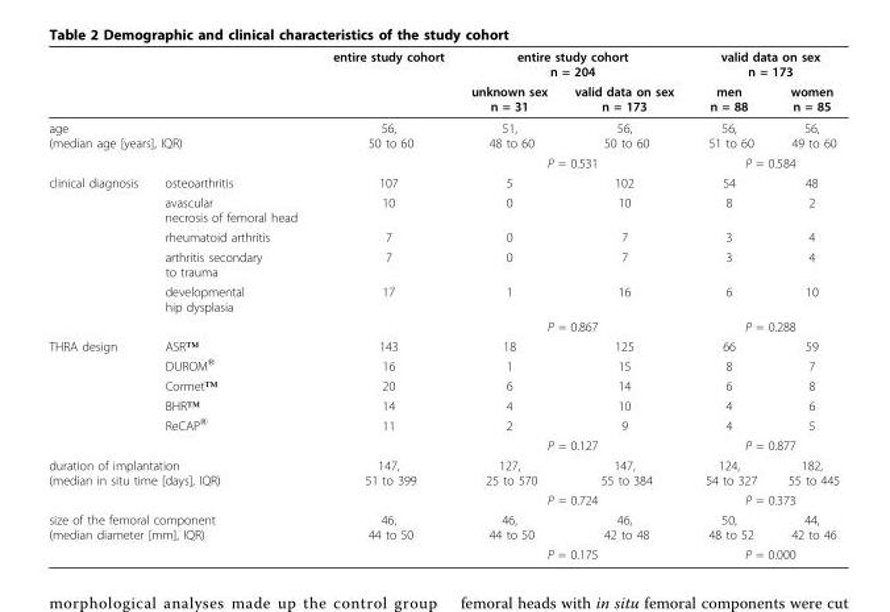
<table><thead><tr><td rowspan="2"></td><td rowspan="2"></td><td rowspan="2">entire study cohort</td><td colspan="2">entire study cohort n = 204</td><td colspan="2">valid data on sex n = 173</td></tr><tr><td>unknown sex n = 31</td><td>valid data on sex n = 173</td><td>men n = 88</td><td>women n = 85</td></tr></thead><tbody><tr><td colspan="2">age (median age [years], IQR)</td><td>56, 50 to 60</td><td>51, 48 to 60</td><td>56, 50 to 60</td><td>56, 51 to 60</td><td>56, 49 to 60</td></tr><tr><td></td><td></td><td></td><td colspan="2">P = 0.531</td><td colspan="2">P = 0.584</td></tr><tr><td rowspan="6">clinical diagnosis</td><td>osteoarthritis</td><td>107</td><td>5</td><td>102</td><td>54</td><td>48</td></tr><tr><td>avascular necrosis of femoral head</td><td>10</td><td>0</td><td>10</td><td>8</td><td>2</td></tr><tr><td>rheumatoid arthritis</td><td>7</td><td>0</td><td>7</td><td>3</td><td>4</td></tr><tr><td>arthritis secondary to trauma</td><td>7</td><td>0</td><td>7</td><td>3</td><td>4</td></tr><tr><td>developmental hip dysplasia</td><td>17</td><td>1</td><td>16</td><td>6</td><td>10</td></tr><tr><td></td><td></td><td colspan="2">P = 0.867</td><td colspan="2">P = 0.288</td></tr><tr><td rowspan="6">THRA design</td><td>ASR™</td><td>143</td><td>18</td><td>125</td><td>66</td><td>59</td></tr><tr><td>DUROM<sup>®</sup></td><td>16</td><td>1</td><td>15</td><td>8</td><td>7</td></tr><tr><td>Cormet™</td><td>20</td><td>6</td><td>14</td><td>6</td><td>8</td></tr><tr><td>BHR™</td><td>14</td><td>4</td><td>10</td><td>4</td><td>6</td></tr><tr><td>ReCAP<sup>®</sup></td><td>11</td><td>2</td><td>9</td><td>4</td><td>5</td></tr><tr><td></td><td></td><td colspan="2">P = 0.127</td><td colspan="2">P = 0.877</td></tr><tr><td colspan="2">duration of implantation (median in situ time [days], IQR)</td><td>147, 51 to 399</td><td>127, 25 to 570</td><td>147, 55 to 384</td><td>124, 54 to 327</td><td>182, 55 to 445</td></tr><tr><td></td><td></td><td></td><td colspan="2">P = 0.724</td><td colspan="2">P = 0.373</td></tr><tr><td colspan="2">size of the femoral component (median diameter [mm], IQR)</td><td>46, 44 to 50</td><td>46, 44 to 50</td><td>46, 42 to 48</td><td>50, 48 to 52</td><td>44, 42 to 46</td></tr><tr><td></td><td></td><td></td><td colspan="2">P = 0.175</td><td colspan="2">P = 0.000</td></tr></tbody></table>